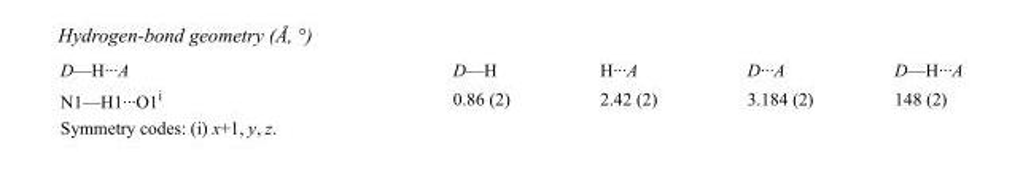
<table><tbody><tr><td>D—H···A</td><td>D—H</td><td>H···A</td><td>D···A</td><td>D—H···A</td></tr><tr><td>N1—H1···O1<sup>i</sup></td><td>0.86 (2)</td><td>2.42 (2)</td><td>3.184 (2)</td><td>148 (2)</td></tr></tbody></table>